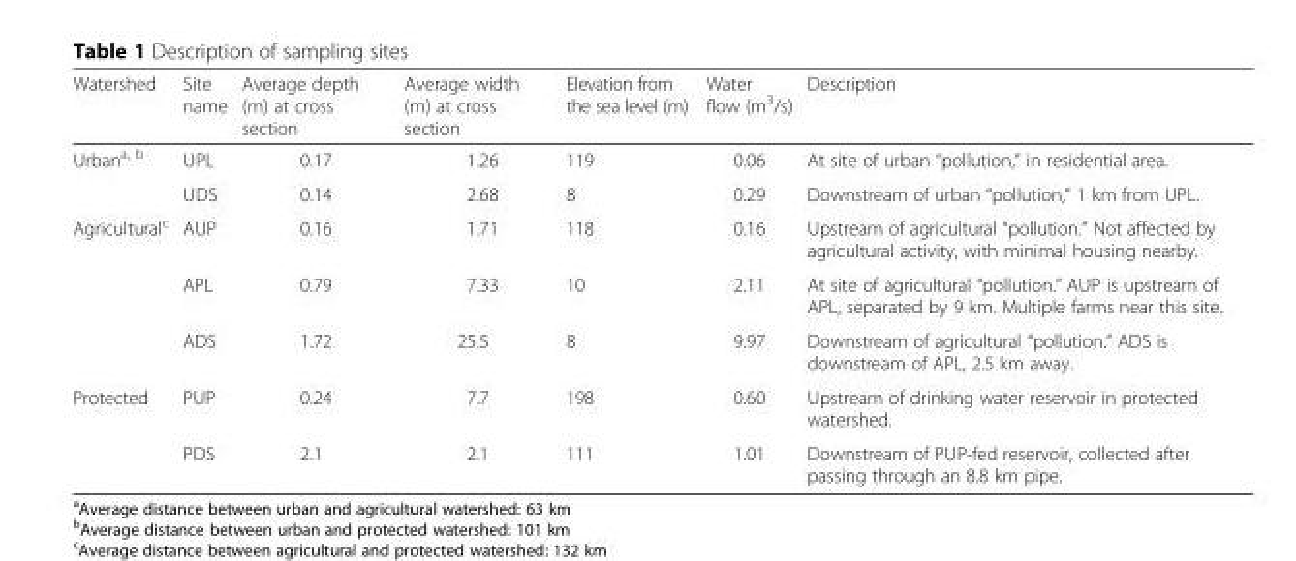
<table><thead><tr><td>Watershed</td><td>Site name</td><td>Average depth (m) at cross section</td><td>Average width (m) at cross section</td><td>Elevation from the sea level (m)</td><td>Water flow (m<sup>3</sup>/s)</td><td>Description</td></tr></thead><tbody><tr><td rowspan="2">Urban<sup>a, b</sup></td><td>UPL</td><td>0.17</td><td>1.26</td><td>119</td><td>0.06</td><td>At site of urban “pollution,” in residential area.</td></tr><tr><td>UDS</td><td>0.14</td><td>2.68</td><td>8</td><td>0.29</td><td>Downstream of urban “pollution,” 1 km from UPL.</td></tr><tr><td rowspan="3">Agricultural<sup>c</sup></td><td>AUP</td><td>0.16</td><td>1.71</td><td>118</td><td>0.16</td><td>Upstream of agricultural “pollution.” Not affected by agricultural activity, with minimal housing nearby.</td></tr><tr><td>APL</td><td>0.79</td><td>7.33</td><td>10</td><td>2.11</td><td>At site of agricultural “pollution.” AUP is upstream of APL, separated by 9 km. Multiple farms near this site.</td></tr><tr><td>ADS</td><td>1.72</td><td>25.5</td><td>8</td><td>9.97</td><td>Downstream of agricultural “pollution.” ADS is downstream of APL, 2.5 km away.</td></tr><tr><td rowspan="2">Protected</td><td>PUP</td><td>0.24</td><td>7.7</td><td>198</td><td>0.60</td><td>Upstream of drinking water reservoir in protected watershed.</td></tr><tr><td>PDS</td><td>2.1</td><td>2.1</td><td>111</td><td>1.01</td><td>Downstream of PUP-fed reservoir, collected after passing through an 8.8 km pipe.</td></tr></tbody></table>